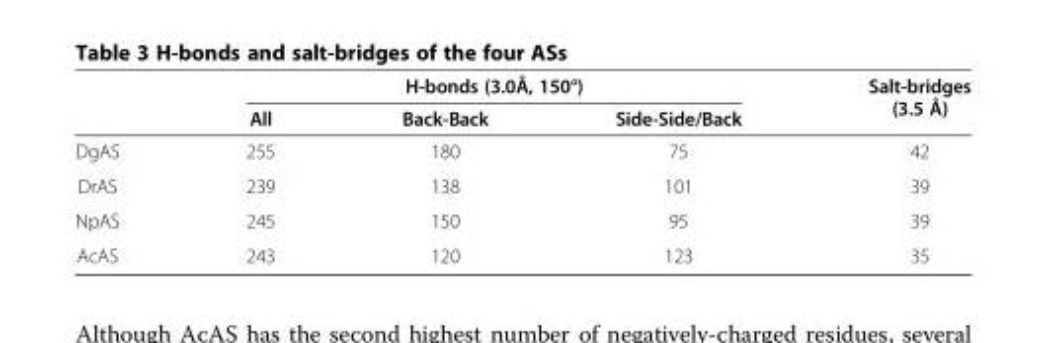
<table><thead><tr><td rowspan="2"></td><td colspan="3">H-bonds (3.0Å, 150°)</td><td rowspan="2">Salt-bridges (3.5 Å)</td></tr><tr><td>All</td><td>Back-Back</td><td>Side-Side/Back</td></tr></thead><tbody><tr><td>DgAS</td><td>255</td><td>180</td><td>75</td><td>42</td></tr><tr><td>DrAS</td><td>239</td><td>138</td><td>101</td><td>39</td></tr><tr><td>NpAS</td><td>245</td><td>150</td><td>95</td><td>39</td></tr><tr><td>AcAS</td><td>243</td><td>120</td><td>123</td><td>35</td></tr></tbody></table>